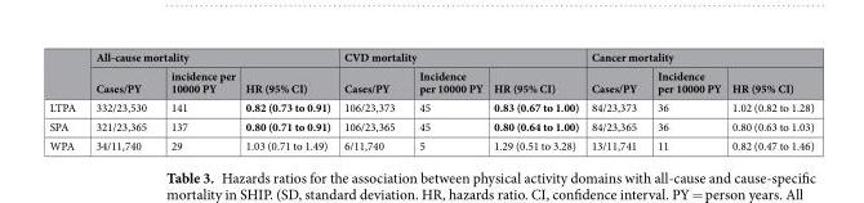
<table><thead><tr><td rowspan="2"></td><td colspan="3">All-cause mortality</td><td colspan="3">CVD mortality</td><td colspan="3">Cancer mortality</td></tr><tr><td>Cases/PY</td><td>incidence per 10000 PY</td><td>HR (95% CI)</td><td>Cases/PY</td><td>Incidence per 10000 PY</td><td>HR (95% CI)</td><td>Cases/PY</td><td>Incidence per 10000 PY</td><td>HR (95% CI)</td></tr></thead><tbody><tr><td>LTPA</td><td>332/23,530</td><td>141</td><td>0.82 (0.73 to 0.91)</td><td>106/23,373</td><td>45</td><td>0.83 (0.67 to 1.00)</td><td>84/23,373</td><td>36</td><td>1.02 (0.82 to 1.28)</td></tr><tr><td>SPA</td><td>321/23,365</td><td>137</td><td>0.80 (0.71 to 0.91)</td><td>106/23,365</td><td>45</td><td>0.80 (0.64 to 1.00)</td><td>84/23,365</td><td>36</td><td>0.80 (0.63 to 1.03)</td></tr><tr><td>WPA</td><td>34/11,740</td><td>29</td><td>1.03 (0.71 to 1.49)</td><td>6/11,740</td><td>5</td><td>1.29 (0.51 to 3.28)</td><td>13/11,741</td><td>11</td><td>0.82 (0.47 to 1.46)</td></tr></tbody></table>